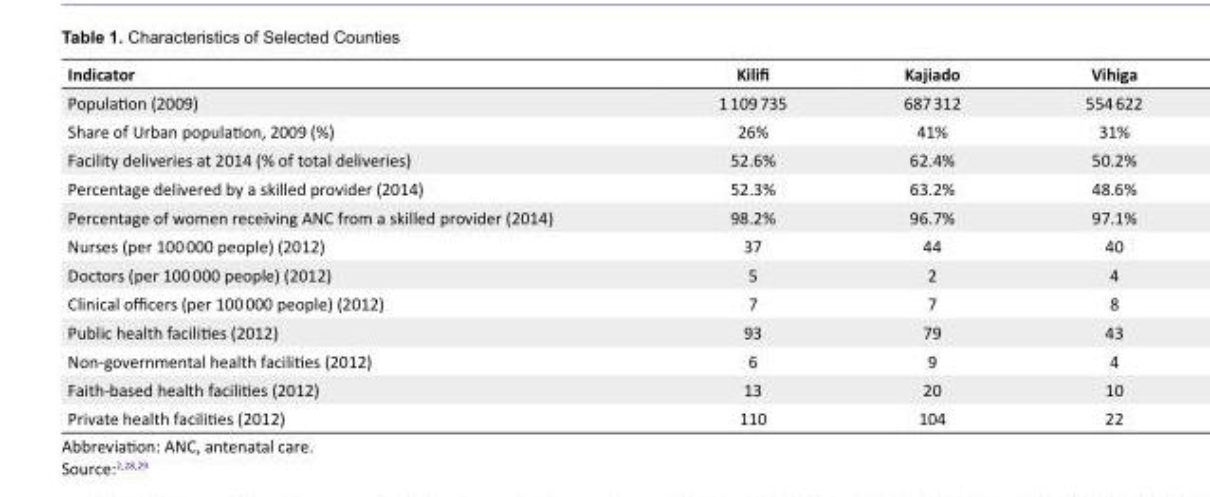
<table><tbody><tr><td>Indicator</td><td>Kilifi</td><td>Kajiado</td><td>Vihiga</td></tr><tr><td>Population (2009)</td><td>1 109 735</td><td>687 312</td><td>554 622</td></tr><tr><td>Share of Urban population, 2009 (%)</td><td>26%</td><td>41%</td><td>31%</td></tr><tr><td>Facility deliveries at 2014 (% of total deliveries)</td><td>52.6%</td><td>62.4%</td><td>50.2%</td></tr><tr><td>Percentage delivered by a skilled provider (2014)</td><td>52.3%</td><td>63.2%</td><td>48.6%</td></tr><tr><td>Percentage of women receiving ANC from a skilled provider (2014)</td><td>98.2%</td><td>96.7%</td><td>97.1%</td></tr><tr><td>Nurses (per 100 000 people) (2012)</td><td>37</td><td>44</td><td>40</td></tr><tr><td>Doctors (per 100 000 people) (2012)</td><td>5</td><td>2</td><td>4</td></tr><tr><td>Clinical officers (per 100 000 people) (2012)</td><td>7</td><td>7</td><td>8</td></tr><tr><td>Public health facilities (2012)</td><td>93</td><td>79</td><td>43</td></tr><tr><td>Non-governmental health facilities (2012)</td><td>6</td><td>9</td><td>4</td></tr><tr><td>Faith-based health facilities (2012)</td><td>13</td><td>20</td><td>10</td></tr><tr><td>Private health facilities (2012)</td><td>110</td><td>104</td><td>22</td></tr></tbody></table>